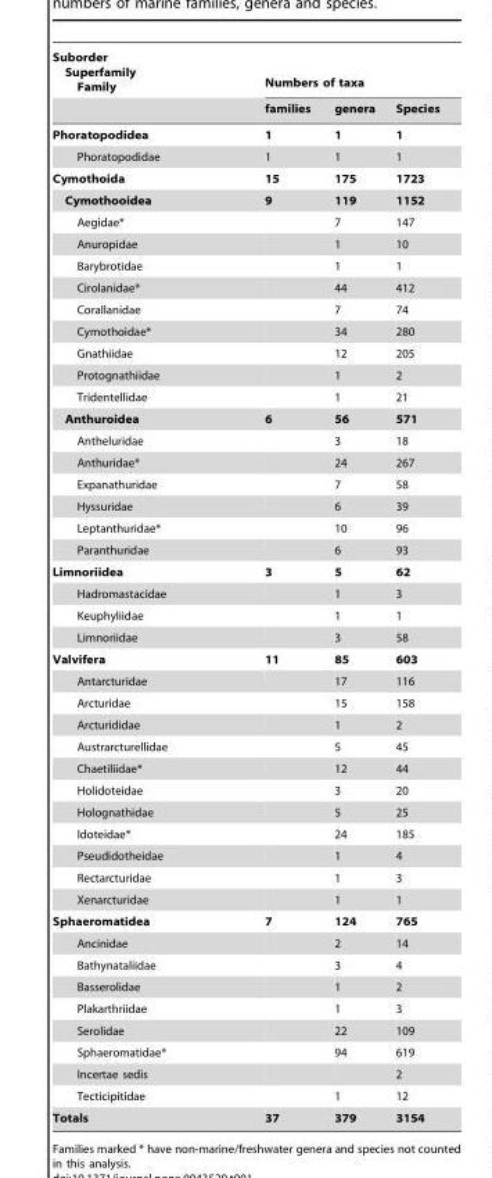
<table><thead><tr><td rowspan="2">Suborder Superfamily Family</td><td colspan="3">Numbers of taxa</td></tr><tr><td>families</td><td>genera</td><td>Species</td></tr></thead><tbody><tr><td>Phoratopodidea</td><td>1</td><td>1</td><td>1</td></tr><tr><td>Phoratopodidae</td><td>1</td><td>1</td><td>1</td></tr><tr><td>Cymothoida</td><td>15</td><td>175</td><td>1723</td></tr><tr><td>Cymothooidea</td><td>9</td><td>119</td><td>1152</td></tr><tr><td>Aegidae*</td><td></td><td>7</td><td>147</td></tr><tr><td>Anuropidae</td><td></td><td>1</td><td>10</td></tr><tr><td>Barybrotidae</td><td></td><td>1</td><td>1</td></tr><tr><td>Cirolanidae*</td><td></td><td>44</td><td>412</td></tr><tr><td>Corallanidae</td><td></td><td>7</td><td>74</td></tr><tr><td>Cymothoidae*</td><td></td><td>34</td><td>280</td></tr><tr><td>Gnathiidae</td><td></td><td>12</td><td>205</td></tr><tr><td>Protognathiidae</td><td></td><td>1</td><td>2</td></tr><tr><td>Tridentellidae</td><td></td><td>1</td><td>21</td></tr><tr><td>Anthuroidea</td><td>6</td><td>56</td><td>571</td></tr><tr><td>Antheluridae</td><td></td><td>3</td><td>18</td></tr><tr><td>Anthuridae*</td><td></td><td>24</td><td>267</td></tr><tr><td>Expanathuridae</td><td></td><td>7</td><td>58</td></tr><tr><td>Hyssuridae</td><td></td><td>6</td><td>39</td></tr><tr><td>Leptanthuridae*</td><td></td><td>10</td><td>96</td></tr><tr><td>Paranthuridae</td><td></td><td>6</td><td>93</td></tr><tr><td>Limnoriidea</td><td>3</td><td>5</td><td>62</td></tr><tr><td>Hadromastacidae</td><td></td><td>1</td><td>3</td></tr><tr><td>Keuphyliidae</td><td></td><td>1</td><td>1</td></tr><tr><td>Limnoriidae</td><td></td><td>3</td><td>58</td></tr><tr><td>Valvifera</td><td>11</td><td>85</td><td>603</td></tr><tr><td>Antarcturidae</td><td></td><td>17</td><td>116</td></tr><tr><td>Arcturidae</td><td></td><td>15</td><td>158</td></tr><tr><td>Arcturididae</td><td></td><td>1</td><td>2</td></tr><tr><td>Austrarcturellidae</td><td></td><td>5</td><td>45</td></tr><tr><td>Chaetiliidae*</td><td></td><td>12</td><td>44</td></tr><tr><td>Holidoteidae</td><td></td><td>3</td><td>20</td></tr><tr><td>Holognathidae</td><td></td><td>5</td><td>25</td></tr><tr><td>Idoteidae*</td><td></td><td>24</td><td>185</td></tr><tr><td>Pseudidotheidae</td><td></td><td>1</td><td>4</td></tr><tr><td>Rectarcturidae</td><td></td><td>1</td><td>3</td></tr><tr><td>Xenarcturidae</td><td></td><td>1</td><td>1</td></tr><tr><td>Sphaeromatidea</td><td>7</td><td>124</td><td>765</td></tr><tr><td>Ancinidae</td><td></td><td>2</td><td>14</td></tr><tr><td>Bathynataliidae</td><td></td><td>3</td><td>4</td></tr><tr><td>Basserolidae</td><td></td><td>1</td><td>2</td></tr><tr><td>Plakarthriidae</td><td></td><td>1</td><td>3</td></tr><tr><td>Serolidae</td><td></td><td>22</td><td>109</td></tr><tr><td>Sphaeromatidae*</td><td></td><td>94</td><td>619</td></tr><tr><td>Incertae sedis</td><td></td><td></td><td>2</td></tr><tr><td>Tecticipitidae</td><td></td><td>1</td><td>12</td></tr><tr><td>Totals</td><td>37</td><td>379</td><td>3154</td></tr></tbody></table>